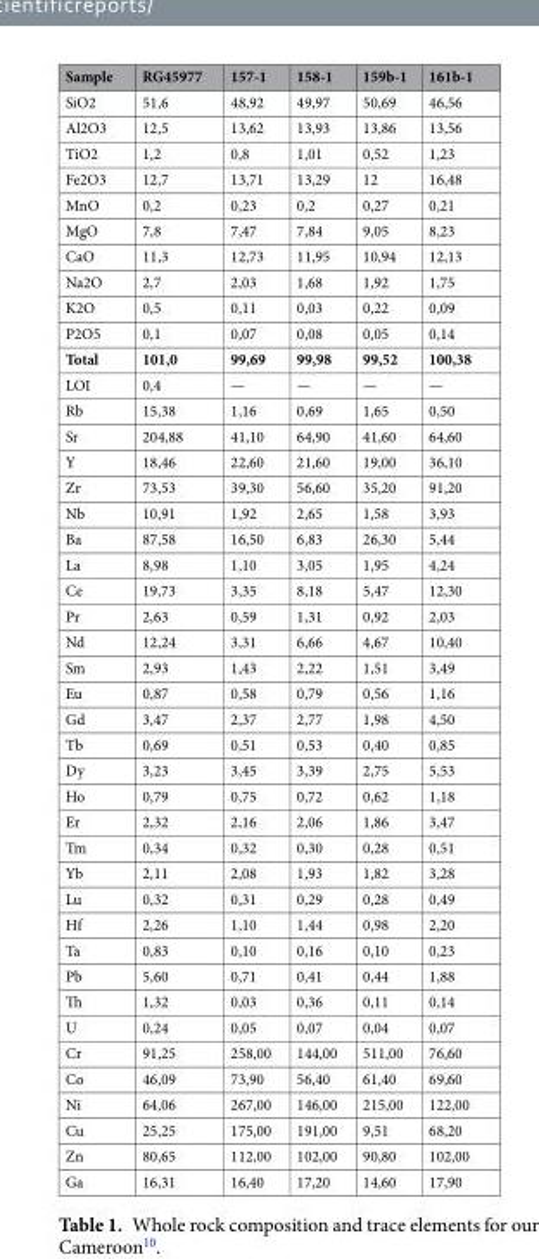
<table><thead><tr><td>Sample</td><td>RG45977</td><td>157-1</td><td>158-1</td><td>159b-1</td><td>161b-1</td></tr></thead><tbody><tr><td>SiO2</td><td>51,6</td><td>48,92</td><td>49,97</td><td>50,69</td><td>46,56</td></tr><tr><td>Al2O3</td><td>12,5</td><td>13,62</td><td>13,93</td><td>13,86</td><td>13,56</td></tr><tr><td>TiO2</td><td>1,2</td><td>0,8</td><td>1,01</td><td>0,52</td><td>1,23</td></tr><tr><td>Fe2O3</td><td>12,7</td><td>13,71</td><td>13,29</td><td>12</td><td>16,48</td></tr><tr><td>MnO</td><td>0,2</td><td>0,23</td><td>0,2</td><td>0,27</td><td>0,21</td></tr><tr><td>MgO</td><td>7,8</td><td>7,47</td><td>7,84</td><td>9,05</td><td>8,23</td></tr><tr><td>CaO</td><td>11,3</td><td>12,73</td><td>11,95</td><td>10,94</td><td>12,13</td></tr><tr><td>Na2O</td><td>2,7</td><td>2,03</td><td>1,68</td><td>1,92</td><td>1,75</td></tr><tr><td>K2O</td><td>0,5</td><td>0,11</td><td>0,03</td><td>0,22</td><td>0,09</td></tr><tr><td>P2O5</td><td>0,1</td><td>0,07</td><td>0,08</td><td>0,05</td><td>0,14</td></tr><tr><td>Total</td><td>101,0</td><td>99,69</td><td>99,98</td><td>99,52</td><td>100,38</td></tr><tr><td>LOI</td><td>0,4</td><td>—</td><td>—</td><td>—</td><td>—</td></tr><tr><td>Rb</td><td>15,38</td><td>1,16</td><td>0,69</td><td>1,65</td><td>0,50</td></tr><tr><td>Sr</td><td>204,88</td><td>41,10</td><td>64,90</td><td>41,60</td><td>64,60</td></tr><tr><td>Y</td><td>18,46</td><td>22,60</td><td>21,60</td><td>19,00</td><td>36,10</td></tr><tr><td>Zr</td><td>73,53</td><td>39,30</td><td>56,60</td><td>35,20</td><td>91,20</td></tr><tr><td>Nb</td><td>10,91</td><td>1,92</td><td>2,65</td><td>1,58</td><td>3,93</td></tr><tr><td>Ba</td><td>87,58</td><td>16,50</td><td>6,83</td><td>26,30</td><td>5,44</td></tr><tr><td>La</td><td>8,98</td><td>1,10</td><td>3,05</td><td>1,95</td><td>4,24</td></tr><tr><td>Ce</td><td>19,73</td><td>3,35</td><td>8,18</td><td>5,47</td><td>12,30</td></tr><tr><td>Pr</td><td>2,63</td><td>0,59</td><td>1,31</td><td>0,92</td><td>2,03</td></tr><tr><td>Nd</td><td>12,24</td><td>3,31</td><td>6,66</td><td>4,67</td><td>10,40</td></tr><tr><td>Sm</td><td>2,93</td><td>1,43</td><td>2,22</td><td>1,51</td><td>3,49</td></tr><tr><td>Eu</td><td>0,87</td><td>0,58</td><td>0,79</td><td>0,56</td><td>1,16</td></tr><tr><td>Gd</td><td>3,47</td><td>2,37</td><td>2,77</td><td>1,98</td><td>4,50</td></tr><tr><td>Tb</td><td>0,69</td><td>0,51</td><td>0,53</td><td>0,40</td><td>0,85</td></tr><tr><td>Dy</td><td>3,23</td><td>3,45</td><td>3,39</td><td>2,75</td><td>5,53</td></tr><tr><td>Ho</td><td>0,79</td><td>0,75</td><td>0,72</td><td>0,62</td><td>1,18</td></tr><tr><td>Er</td><td>2,32</td><td>2,16</td><td>2,06</td><td>1,86</td><td>3,47</td></tr><tr><td>Tm</td><td>0,34</td><td>0,32</td><td>0,30</td><td>0,28</td><td>0,51</td></tr><tr><td>Yb</td><td>2,11</td><td>2,08</td><td>1,93</td><td>1,82</td><td>3,28</td></tr><tr><td>Lu</td><td>0,32</td><td>0,31</td><td>0,29</td><td>0,28</td><td>0,49</td></tr><tr><td>Hf</td><td>2,26</td><td>1,10</td><td>1,44</td><td>0,98</td><td>2,20</td></tr><tr><td>Ta</td><td>0,83</td><td>0,10</td><td>0,16</td><td>0,10</td><td>0,23</td></tr><tr><td>Pb</td><td>5,60</td><td>0,71</td><td>0,41</td><td>0,44</td><td>1,88</td></tr><tr><td>Th</td><td>1,32</td><td>0,03</td><td>0,36</td><td>0,11</td><td>0,14</td></tr><tr><td>U</td><td>0,24</td><td>0,05</td><td>0,07</td><td>0,04</td><td>0,07</td></tr><tr><td>Cr</td><td>91,25</td><td>258,00</td><td>144,00</td><td>511,00</td><td>76,60</td></tr><tr><td>Co</td><td>46,09</td><td>73,90</td><td>56,40</td><td>61,40</td><td>69,60</td></tr><tr><td>Ni</td><td>64,06</td><td>267,00</td><td>146,00</td><td>215,00</td><td>122,00</td></tr><tr><td>Cu</td><td>25,25</td><td>175,00</td><td>191,00</td><td>9,51</td><td>68,20</td></tr><tr><td>Zn</td><td>80,65</td><td>112,00</td><td>102,00</td><td>90,80</td><td>102,00</td></tr><tr><td>Ga</td><td>16,31</td><td>16,40</td><td>17,20</td><td>14,60</td><td>17,90</td></tr></tbody></table>